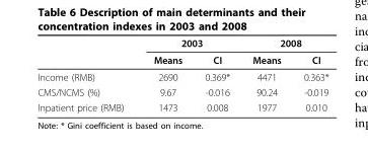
<table><thead><tr><td rowspan="2"></td><td colspan="2">2003</td><td colspan="2">2008</td></tr><tr><td>Means</td><td>CI</td><td>Means</td><td>CI</td></tr></thead><tbody><tr><td>Income (RMB)</td><td>2690</td><td>0.369*</td><td>4471</td><td>0.363*</td></tr><tr><td>CMS/NCMS (%)</td><td>9.67</td><td>-0.016</td><td>90.24</td><td>-0.019</td></tr><tr><td>Inpatient price (RMB)</td><td>1473</td><td>0.008</td><td>1977</td><td>0.010</td></tr></tbody></table>